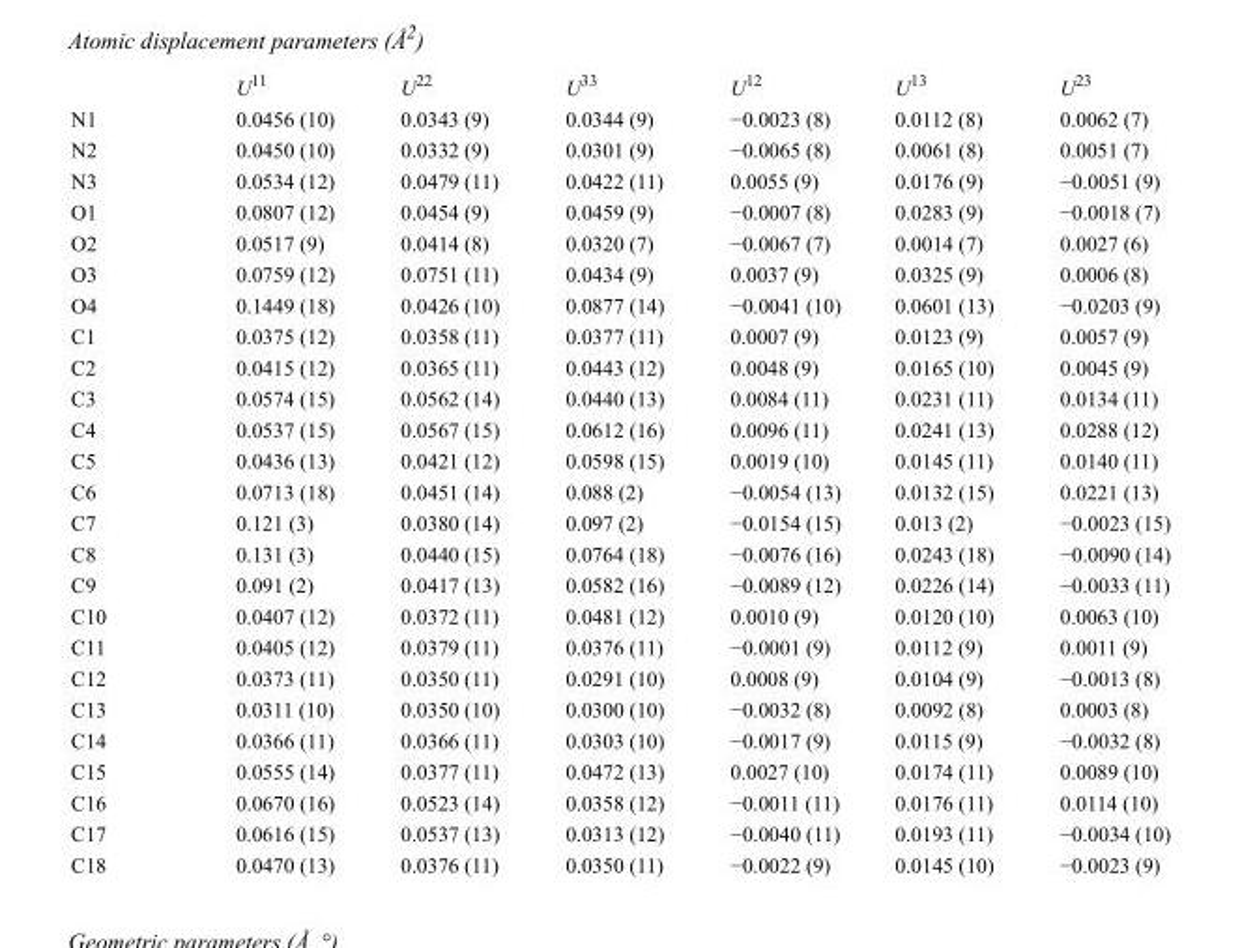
<table><thead><tr><td></td><td>U<sup>11</sup></td><td>U<sup>22</sup></td><td>U<sup>33</sup></td><td>U<sup>12</sup></td><td>U<sup>13</sup></td><td>U<sup>23</sup></td></tr></thead><tbody><tr><td>N1</td><td>0.0456 (10)</td><td>0.0343 (9)</td><td>0.0344 (9)</td><td>−0.0023 (8)</td><td>0.0112 (8)</td><td>0.0062 (7)</td></tr><tr><td>N2</td><td>0.0450 (10)</td><td>0.0332 (9)</td><td>0.0301 (9)</td><td>−0.0065 (8)</td><td>0.0061 (8)</td><td>0.0051 (7)</td></tr><tr><td>N3</td><td>0.0534 (12)</td><td>0.0479 (11)</td><td>0.0422 (11)</td><td>0.0055 (9)</td><td>0.0176 (9)</td><td>−0.0051 (9)</td></tr><tr><td>O1</td><td>0.0807 (12)</td><td>0.0454 (9)</td><td>0.0459 (9)</td><td>−0.0007 (8)</td><td>0.0283 (9)</td><td>−0.0018 (7)</td></tr><tr><td>O2</td><td>0.0517 (9)</td><td>0.0414 (8)</td><td>0.0320 (7)</td><td>−0.0067 (7)</td><td>0.0014 (7)</td><td>0.0027 (6)</td></tr><tr><td>O3</td><td>0.0759 (12)</td><td>0.0751 (11)</td><td>0.0434 (9)</td><td>0.0037 (9)</td><td>0.0325 (9)</td><td>0.0006 (8)</td></tr><tr><td>O4</td><td>0.1449 (18)</td><td>0.0426 (10)</td><td>0.0877 (14)</td><td>−0.0041 (10)</td><td>0.0601 (13)</td><td>−0.0203 (9)</td></tr><tr><td>C1</td><td>0.0375 (12)</td><td>0.0358 (11)</td><td>0.0377 (11)</td><td>0.0007 (9)</td><td>0.0123 (9)</td><td>0.0057 (9)</td></tr><tr><td>C2</td><td>0.0415 (12)</td><td>0.0365 (11)</td><td>0.0443 (12)</td><td>0.0048 (9)</td><td>0.0165 (10)</td><td>0.0045 (9)</td></tr><tr><td>C3</td><td>0.0574 (15)</td><td>0.0562 (14)</td><td>0.0440 (13)</td><td>0.0084 (11)</td><td>0.0231 (11)</td><td>0.0134 (11)</td></tr><tr><td>C4</td><td>0.0537 (15)</td><td>0.0567 (15)</td><td>0.0612 (16)</td><td>0.0096 (11)</td><td>0.0241 (13)</td><td>0.0288 (12)</td></tr><tr><td>C5</td><td>0.0436 (13)</td><td>0.0421 (12)</td><td>0.0598 (15)</td><td>0.0019 (10)</td><td>0.0145 (11)</td><td>0.0140 (11)</td></tr><tr><td>C6</td><td>0.0713 (18)</td><td>0.0451 (14)</td><td>0.088 (2)</td><td>−0.0054 (13)</td><td>0.0132 (15)</td><td>0.0221 (13)</td></tr><tr><td>C7</td><td>0.121 (3)</td><td>0.0380 (14)</td><td>0.097 (2)</td><td>−0.0154 (15)</td><td>0.013 (2)</td><td>−0.0023 (15)</td></tr><tr><td>C8</td><td>0.131 (3)</td><td>0.0440 (15)</td><td>0.0764 (18)</td><td>−0.0076 (16)</td><td>0.0243 (18)</td><td>−0.0090 (14)</td></tr><tr><td>C9</td><td>0.091 (2)</td><td>0.0417 (13)</td><td>0.0582 (16)</td><td>−0.0089 (12)</td><td>0.0226 (14)</td><td>−0.0033 (11)</td></tr><tr><td>C10</td><td>0.0407 (12)</td><td>0.0372 (11)</td><td>0.0481 (12)</td><td>0.0010 (9)</td><td>0.0120 (10)</td><td>0.0063 (10)</td></tr><tr><td>C11</td><td>0.0405 (12)</td><td>0.0379 (11)</td><td>0.0376 (11)</td><td>−0.0001 (9)</td><td>0.0112 (9)</td><td>0.0011 (9)</td></tr><tr><td>C12</td><td>0.0373 (11)</td><td>0.0350 (11)</td><td>0.0291 (10)</td><td>0.0008 (9)</td><td>0.0104 (9)</td><td>−0.0013 (8)</td></tr><tr><td>C13</td><td>0.0311 (10)</td><td>0.0350 (10)</td><td>0.0300 (10)</td><td>−0.0032 (8)</td><td>0.0092 (8)</td><td>0.0003 (8)</td></tr><tr><td>C14</td><td>0.0366 (11)</td><td>0.0366 (11)</td><td>0.0303 (10)</td><td>−0.0017 (9)</td><td>0.0115 (9)</td><td>−0.0032 (8)</td></tr><tr><td>C15</td><td>0.0555 (14)</td><td>0.0377 (11)</td><td>0.0472 (13)</td><td>0.0027 (10)</td><td>0.0174 (11)</td><td>0.0089 (10)</td></tr><tr><td>C16</td><td>0.0670 (16)</td><td>0.0523 (14)</td><td>0.0358 (12)</td><td>−0.0011 (11)</td><td>0.0176 (11)</td><td>0.0114 (10)</td></tr><tr><td>C17</td><td>0.0616 (15)</td><td>0.0537 (13)</td><td>0.0313 (12)</td><td>−0.0040 (11)</td><td>0.0193 (11)</td><td>−0.0034 (10)</td></tr><tr><td>C18</td><td>0.0470 (13)</td><td>0.0376 (11)</td><td>0.0350 (11)</td><td>−0.0022 (9)</td><td>0.0145 (10)</td><td>−0.0023 (9)</td></tr></tbody></table>